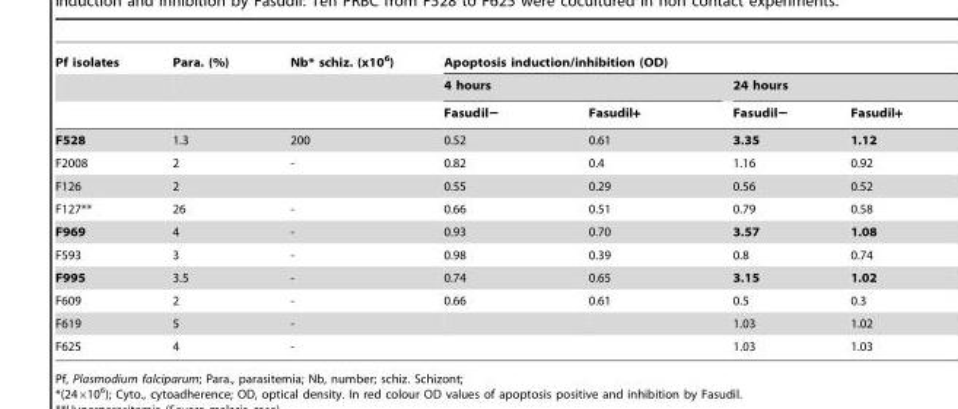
<table><thead><tr><td rowspan="3">Pf isolates</td><td rowspan="3">Para. (%)</td><td rowspan="3">Nb* schiz. (x10<sup>6</sup>)</td><td colspan="4">Apoptosis induction/inhibition (OD)</td></tr><tr><td colspan="2">4 hours</td><td colspan="2">24 hours</td></tr><tr><td>Fasudil−</td><td>Fasudil+</td><td>Fasudil−</td><td>Fasudil+</td></tr></thead><tbody><tr><td>F528</td><td>1.3</td><td>200</td><td>0.52</td><td>0.61</td><td>3.35</td><td>1.12</td></tr><tr><td>F2008</td><td>2</td><td>-</td><td>0.82</td><td>0.4</td><td>1.16</td><td>0.92</td></tr><tr><td>F126</td><td>2</td><td></td><td>0.55</td><td>0.29</td><td>0.56</td><td>0.52</td></tr><tr><td>F127**</td><td>26</td><td>-</td><td>0.66</td><td>0.51</td><td>0.79</td><td>0.58</td></tr><tr><td>F969</td><td>4</td><td>-</td><td>0.93</td><td>0.70</td><td>3.57</td><td>1.08</td></tr><tr><td>F593</td><td>3</td><td>-</td><td>0.98</td><td>0.39</td><td>0.8</td><td>0.74</td></tr><tr><td>F995</td><td>3.5</td><td>-</td><td>0.74</td><td>0.65</td><td>3.15</td><td>1.02</td></tr><tr><td>F609</td><td>2</td><td>-</td><td>0.66</td><td>0.61</td><td>0.5</td><td>0.3</td></tr><tr><td>F619</td><td>5</td><td>-</td><td></td><td></td><td>1.03</td><td>1.02</td></tr><tr><td>F625</td><td>4</td><td>-</td><td></td><td></td><td>1.03</td><td>1.03</td></tr></tbody></table>